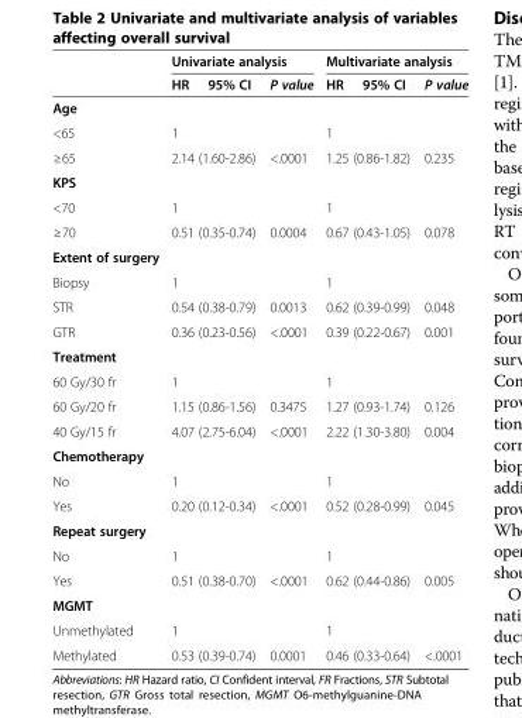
<table><thead><tr><td rowspan="2"></td><td colspan="3">Univariate analysis</td><td colspan="3">Multivariate analysis</td></tr><tr><td>HR</td><td>95% CI</td><td>P value</td><td>HR</td><td>95% CI</td><td>P value</td></tr></thead><tbody><tr><td colspan="7">Age</td></tr><tr><td>&lt;65</td><td colspan="2">1</td><td></td><td colspan="2">1</td><td></td></tr><tr><td>≥65</td><td colspan="2">2.14 (1.60-2.86)</td><td>&lt;.0001</td><td colspan="2">1.25 (0.86-1.82)</td><td>0.235</td></tr><tr><td colspan="7">KPS</td></tr><tr><td>&lt;70</td><td colspan="2">1</td><td></td><td colspan="2">1</td><td></td></tr><tr><td>≥70</td><td colspan="2">0.51 (0.35-0.74)</td><td>0.0004</td><td colspan="2">0.67 (0.43-1.05)</td><td>0.078</td></tr><tr><td colspan="7">Extent of surgery</td></tr><tr><td>Biopsy</td><td colspan="2">1</td><td></td><td colspan="2">1</td><td></td></tr><tr><td>STR</td><td colspan="2">0.54 (0.38-0.79)</td><td>0.0013</td><td colspan="2">0.62 (0.39-0.99)</td><td>0.048</td></tr><tr><td>GTR</td><td colspan="2">0.36 (0.23-0.56)</td><td>&lt;.0001</td><td colspan="2">0.39 (0.22-0.67)</td><td>0.001</td></tr><tr><td colspan="7">Treatment</td></tr><tr><td>60 Gy/30 fr</td><td colspan="2">1</td><td></td><td colspan="2">1</td><td></td></tr><tr><td>60 Gy/20 fr</td><td colspan="2">1.15 (0.86-1.56)</td><td>0.3475</td><td colspan="2">1.27 (0.93-1.74)</td><td>0.126</td></tr><tr><td>40 Gy/15 fr</td><td colspan="2">4.07 (2.75-6.04)</td><td>&lt;.0001</td><td colspan="2">2.22 (1.30-3.80)</td><td>0.004</td></tr><tr><td colspan="7">Chemotherapy</td></tr><tr><td>No</td><td colspan="2">1</td><td></td><td colspan="2">1</td><td></td></tr><tr><td>Yes</td><td colspan="2">0.20 (0.12-0.34)</td><td>&lt;.0001</td><td colspan="2">0.52 (0.28-0.99)</td><td>0.045</td></tr><tr><td colspan="7">Repeat surgery</td></tr><tr><td>No</td><td colspan="2">1</td><td></td><td colspan="2">1</td><td></td></tr><tr><td>Yes</td><td colspan="2">0.51 (0.38-0.70)</td><td>&lt;.0001</td><td colspan="2">0.62 (0.44-0.86)</td><td>0.005</td></tr><tr><td colspan="7">MGMT</td></tr><tr><td>Unmethylated</td><td colspan="2">1</td><td></td><td colspan="2">1</td><td></td></tr><tr><td>Methylated</td><td colspan="2">0.53 (0.39-0.74)</td><td>0.0001</td><td colspan="2">0.46 (0.33-0.64)</td><td>&lt;.0001</td></tr></tbody></table>